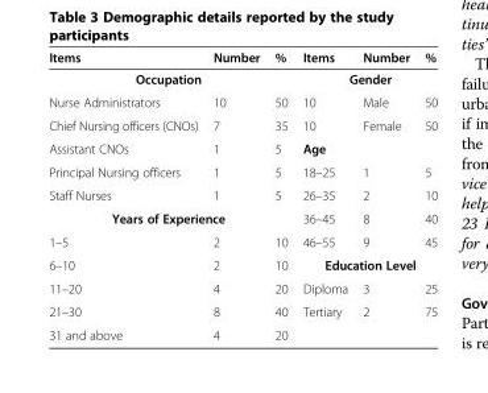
<table><thead><tr><td>Items</td><td>Number</td><td>%</td><td>Items</td><td>Number</td><td>%</td></tr></thead><tbody><tr><td colspan="2">Occupation</td><td></td><td colspan="2">Gender</td><td></td></tr><tr><td>Nurse Administrators</td><td>10</td><td>50</td><td>10</td><td>Male</td><td>50</td></tr><tr><td>Chief Nursing officers (CNOs)</td><td>7</td><td>35</td><td>10</td><td>Female</td><td>50</td></tr><tr><td>Assistant CNOs</td><td>1</td><td>5</td><td>Age</td><td></td><td></td></tr><tr><td>Principal Nursing officers</td><td>1</td><td>5</td><td>18–25</td><td>1</td><td>5</td></tr><tr><td>Staff Nurses</td><td>1</td><td>5</td><td>26–35</td><td>2</td><td>10</td></tr><tr><td colspan="2">Years of Experience</td><td></td><td>36–45</td><td>8</td><td>40</td></tr><tr><td>1–5</td><td>2</td><td>10</td><td>46–55</td><td>9</td><td>45</td></tr><tr><td>6–10</td><td>2</td><td>10</td><td colspan="2">Education Level</td><td></td></tr><tr><td>11–20</td><td>4</td><td>20</td><td>Diploma</td><td>3</td><td>25</td></tr><tr><td>21–30</td><td>8</td><td>40</td><td>Tertiary</td><td>2</td><td>75</td></tr><tr><td>31 and above</td><td>4</td><td>20</td><td></td><td></td><td></td></tr></tbody></table>